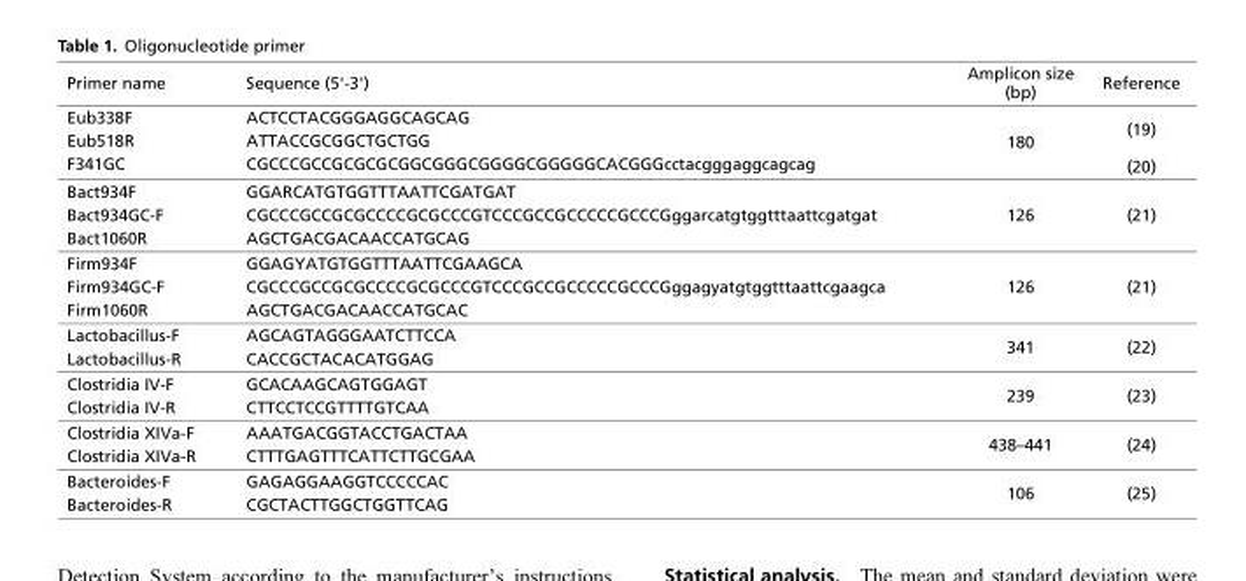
<table><thead><tr><td>Primer name</td><td>Sequence (5&#x27;-3&#x27;)</td><td>Amplicon size (bp)</td><td>Reference</td></tr></thead><tbody><tr><td>Eub338F</td><td>ACTCCTACGGGAGGCAGCAG</td><td rowspan="3">180</td><td rowspan="2">(19)</td></tr><tr><td>Eub518R</td><td>ATTACCGCGGCTGCTGG</td></tr><tr><td>F341GC</td><td>CGCCCGCCGCGCGCGGCGGGCGGGGCGGGGGCACGGGcctacgggaggcagcag</td><td>(20)</td></tr><tr><td>Bact934F</td><td>GGARCATGTGGTTTAATTCGATGAT</td><td rowspan="3">126</td><td rowspan="3">(21)</td></tr><tr><td>Bact934GC-F</td><td>CGCCCGCCGCGCCCCGCGCCCGTCCCGCCGCCCCCGCCCGggarcatgtggtttaattcgatgat</td></tr><tr><td>Bact1060R</td><td>AGCTGACGACAACCATGCAG</td></tr><tr><td>Firm934F</td><td>GGAGYATGTGGTTTAATTCGAAGCA</td><td rowspan="3">126</td><td rowspan="3">(21)</td></tr><tr><td>Firm934GC-F</td><td>CGCCCGCCGCGCCCCGCGCCCGTCCCGCCGCCCCCGCCCGggagyatgtggtttaattcgaagca</td></tr><tr><td>Firm1060R</td><td>AGCTGACGACAACCATGCAC</td></tr><tr><td>Lactobacillus-F</td><td>AGCAGTAGGGAATCTTCCA</td><td rowspan="2">341</td><td rowspan="2">(22)</td></tr><tr><td>Lactobacillus-R</td><td>CACCGCTACACATGGAG</td></tr><tr><td>Clostridia IV-F</td><td>GCACAAGCAGTGGAGT</td><td rowspan="2">239</td><td rowspan="2">(23)</td></tr><tr><td>Clostridia IV-R</td><td>CTTCCTCCGTTTTGTCAA</td></tr><tr><td>Clostridia XIVa-F</td><td>AAATGACGGTACCTGACTAA</td><td rowspan="2">438–441</td><td rowspan="2">(24)</td></tr><tr><td>Clostridia XIVa-R</td><td>CTTTGAGTTTCATTCTTGCGAA</td></tr><tr><td>Bacteroides-F</td><td>GAGAGGAAGGTCCCCCAC</td><td rowspan="2">106</td><td rowspan="2">(25)</td></tr><tr><td>Bacteroides-R</td><td>CGCTACTTGGCTGGTTCAG</td></tr></tbody></table>